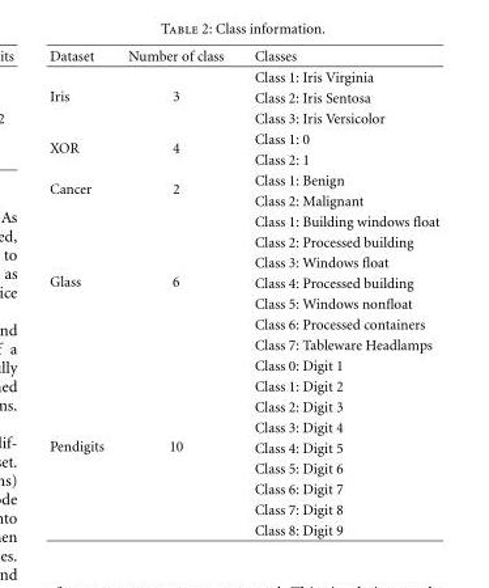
<table><thead><tr><td>Dataset</td><td>Number of class</td><td>Classes</td></tr></thead><tbody><tr><td rowspan="3">Iris</td><td rowspan="3">3</td><td>Class 1: Iris Virginia</td></tr><tr><td>Class 2: Iris Sentosa</td></tr><tr><td>Class 3: Iris Versicolor</td></tr><tr><td rowspan="2">XOR</td><td rowspan="2">4</td><td>Class 1: 0</td></tr><tr><td>Class 2: 1</td></tr><tr><td rowspan="2">Cancer</td><td rowspan="2">2</td><td>Class 1: Benign</td></tr><tr><td>Class 2: Malignant</td></tr><tr><td rowspan="7">Glass</td><td rowspan="7">6</td><td>Class 1: Building windows float</td></tr><tr><td>Class 2: Processed building</td></tr><tr><td>Class 3: Windows float</td></tr><tr><td>Class 4: Processed building</td></tr><tr><td>Class 5: Windows nonfloat</td></tr><tr><td>Class 6: Processed containers</td></tr><tr><td>Class 7: Tableware Headlamps</td></tr><tr><td rowspan="9">Pendigits</td><td rowspan="9">10</td><td>Class 0: Digit 1</td></tr><tr><td>Class 1: Digit 2</td></tr><tr><td>Class 2: Digit 3</td></tr><tr><td>Class 3: Digit 4</td></tr><tr><td>Class 4: Digit 5</td></tr><tr><td>Class 5: Digit 6</td></tr><tr><td>Class 6: Digit 7</td></tr><tr><td>Class 7: Digit 8</td></tr><tr><td>Class 8: Digit 9</td></tr></tbody></table>